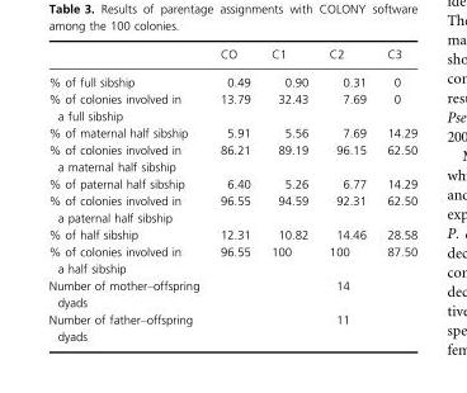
<table><thead><tr><td></td><td>CO</td><td>C1</td><td>C2</td><td>C3</td></tr></thead><tbody><tr><td>% of full sibship</td><td>0.49</td><td>0.90</td><td>0.31</td><td>0</td></tr><tr><td>% of colonies involved in a full sibship</td><td>13.79</td><td>32.43</td><td>7.69</td><td>0</td></tr><tr><td>% of maternal half sibship</td><td>5.91</td><td>5.56</td><td>7.69</td><td>14.29</td></tr><tr><td>% of colonies involved in a maternal half sibship</td><td>86.21</td><td>89.19</td><td>96.15</td><td>62.50</td></tr><tr><td>% of paternal half sibship</td><td>6.40</td><td>5.26</td><td>6.77</td><td>14.29</td></tr><tr><td>% of colonies involved in a paternal half sibship</td><td>96.55</td><td>94.59</td><td>92.31</td><td>62.50</td></tr><tr><td>% of half sibship</td><td>12.31</td><td>10.82</td><td>14.46</td><td>28.58</td></tr><tr><td>% of colonies involved in a half sibship</td><td>96.55</td><td>100</td><td>100</td><td>87.50</td></tr><tr><td>Number of mother–offspring dyads</td><td></td><td></td><td>14</td><td></td></tr><tr><td>Number of father–offspring dyads</td><td></td><td></td><td>11</td><td></td></tr></tbody></table>